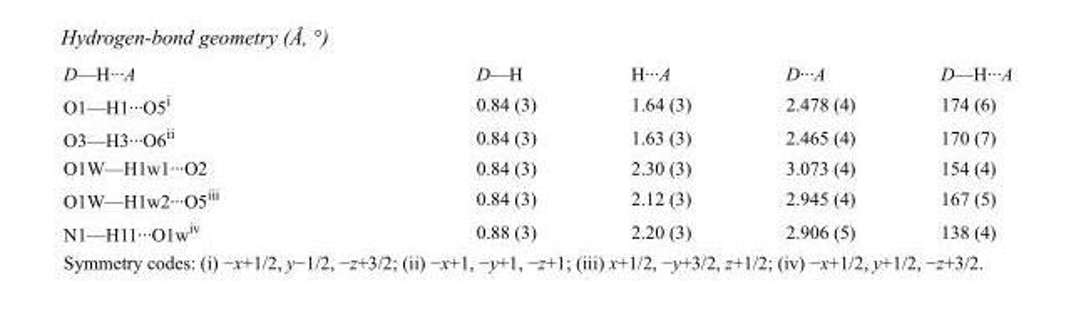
<table><tbody><tr><td>D—H···A</td><td>D—H</td><td>H···A</td><td>D···A</td><td>D—H···A</td></tr><tr><td>O1—H1···O5<sup>i</sup></td><td>0.84 (3)</td><td>1.64 (3)</td><td>2.478 (4)</td><td>174 (6)</td></tr><tr><td>O3—H3···O6<sup>ii</sup></td><td>0.84 (3)</td><td>1.63 (3)</td><td>2.465 (4)</td><td>170 (7)</td></tr><tr><td>O1W—H1w1···O2</td><td>0.84 (3)</td><td>2.30 (3)</td><td>3.073 (4)</td><td>154 (4)</td></tr><tr><td>O1W—H1w2···O5<sup>iii</sup></td><td>0.84 (3)</td><td>2.12 (3)</td><td>2.945 (4)</td><td>167 (5)</td></tr><tr><td>N1—H11···O1w<sup>iv</sup></td><td>0.88 (3)</td><td>2.20 (3)</td><td>2.906 (5)</td><td>138 (4)</td></tr></tbody></table>